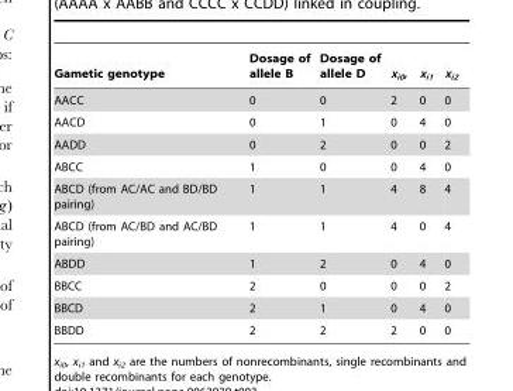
<table><thead><tr><td>Gametic genotype</td><td>Dosage of allele B</td><td>Dosage of allele D</td><td>x<sub>i0</sub>,</td><td>x<sub>i1</sub></td><td>x<sub>i2</sub></td></tr></thead><tbody><tr><td>AACC</td><td>0</td><td>0</td><td>2</td><td>0</td><td>0</td></tr><tr><td>AACD</td><td>0</td><td>1</td><td>0</td><td>4</td><td>0</td></tr><tr><td>AADD</td><td>0</td><td>2</td><td>0</td><td>0</td><td>2</td></tr><tr><td>ABCC</td><td>1</td><td>0</td><td>0</td><td>4</td><td>0</td></tr><tr><td>ABCD (from AC/AC and BD/BD pairing)</td><td>1</td><td>1</td><td>4</td><td>8</td><td>4</td></tr><tr><td>ABCD (from AC/BD and AC/BD pairing)</td><td>1</td><td>1</td><td>4</td><td>0</td><td>4</td></tr><tr><td>ABDD</td><td>1</td><td>2</td><td>0</td><td>4</td><td>0</td></tr><tr><td>BBCC</td><td>2</td><td>0</td><td>0</td><td>0</td><td>2</td></tr><tr><td>BBCD</td><td>2</td><td>1</td><td>0</td><td>4</td><td>0</td></tr><tr><td>BBDD</td><td>2</td><td>2</td><td>2</td><td>0</td><td>0</td></tr></tbody></table>